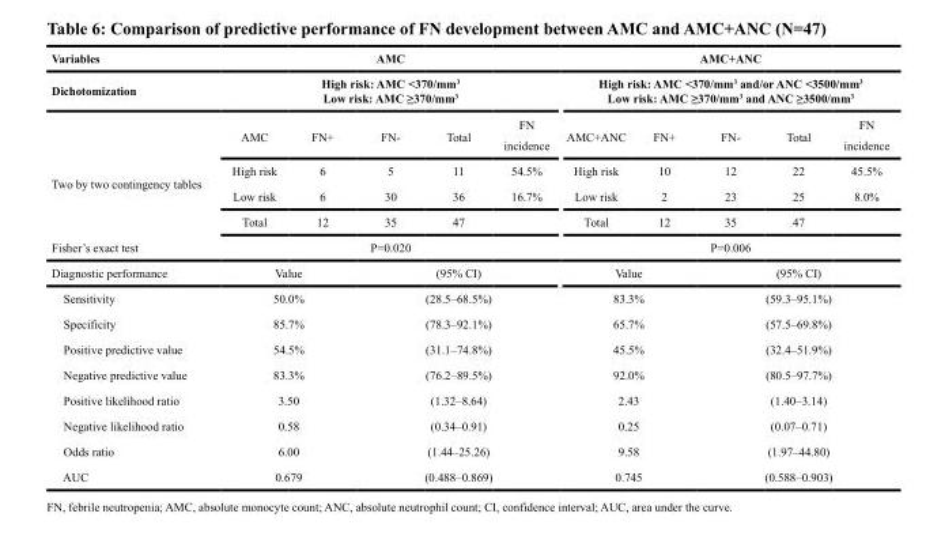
<table><thead><tr><td rowspan="3">Variables Dichotomization</td><td rowspan="2" colspan="5">AMC High risk: AMC &lt;370/mm3 Low risk: AMC ≥370/mm3</td><td rowspan="2" colspan="5">AMC+ANC High risk: AMC &lt;370/mm3 and/or ANC &lt;3500/mm3 Low risk: AMC ≥370/mm3 and ANC ≥3500/mm3</td></tr><tr></tr><tr><td>AMC</td><td>FN+</td><td>FN-</td><td>Total</td><td>FN incidence</td><td>AMC+ANC</td><td>FN+</td><td>FN-</td><td>Total</td><td>FN incidence</td></tr></thead><tbody><tr><td rowspan="3">Two by two contingency tables</td><td>High risk</td><td>6</td><td>5</td><td>11</td><td>54.5%</td><td>High risk</td><td>10</td><td>12</td><td>22</td><td>45.5%</td></tr><tr><td>Low risk</td><td>6</td><td>30</td><td>36</td><td>16.7%</td><td>Low risk</td><td>2</td><td>23</td><td>25</td><td>8.0%</td></tr><tr><td>Total</td><td>12</td><td>35</td><td>47</td><td></td><td>Total</td><td>12</td><td>35</td><td>47</td><td></td></tr><tr><td>Fisher’s exact test</td><td colspan="5">P=0.020</td><td colspan="5">P=0.006</td></tr><tr><td>Diagnostic performance</td><td colspan="2">Value</td><td colspan="3">(95% CI)</td><td colspan="2">Value</td><td colspan="3">(95% CI)</td></tr><tr><td>Sensitivity</td><td colspan="2">50.0%</td><td colspan="3">(28.5–68.5%)</td><td colspan="2">83.3%</td><td colspan="3">(59.3–95.1%)</td></tr><tr><td>Specificity</td><td colspan="2">85.7%</td><td colspan="3">(78.3–92.1%)</td><td colspan="2">65.7%</td><td colspan="3">(57.5–69.8%)</td></tr><tr><td>Positive predictive value</td><td colspan="2">54.5%</td><td colspan="3">(31.1–74.8%)</td><td colspan="2">45.5%</td><td colspan="3">(32.4–51.9%)</td></tr><tr><td>Negative predictive value</td><td colspan="2">83.3%</td><td colspan="3">(76.2–89.5%)</td><td colspan="2">92.0%</td><td colspan="3">(80.5–97.7%)</td></tr><tr><td>Positive likelihood ratio</td><td colspan="2">3.50</td><td colspan="3">(1.32–8.64)</td><td colspan="2">2.43</td><td colspan="3">(1.40–3.14)</td></tr><tr><td>Negative likelihood ratio</td><td colspan="2">0.58</td><td colspan="3">(0.34–0.91)</td><td colspan="2">0.25</td><td colspan="3">(0.07–0.71)</td></tr><tr><td>Odds ratio</td><td colspan="2">6.00</td><td colspan="3">(1.44–25.26)</td><td colspan="2">9.58</td><td colspan="3">(1.97–44.80)</td></tr><tr><td>AUC</td><td colspan="2">0.679</td><td colspan="3">(0.488–0.869)</td><td colspan="2">0.745</td><td colspan="3">(0.588–0.903)</td></tr></tbody></table>